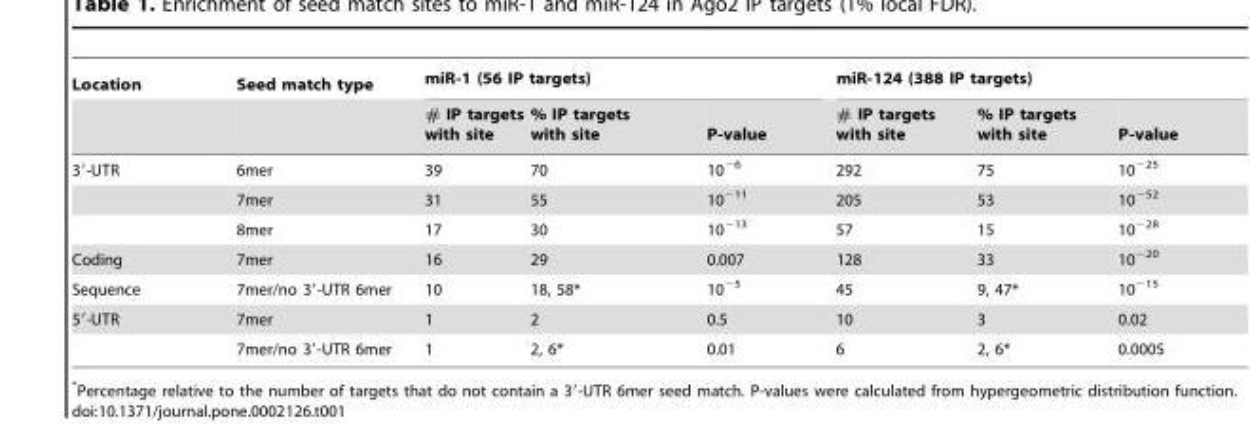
<table><thead><tr><td rowspan="2">Location</td><td rowspan="2">Seed match type</td><td colspan="3">miR-1 (56 IP targets)</td><td colspan="3">miR-124 (388 IP targets)</td></tr><tr><td># IP targets with site</td><td>% IP targets with site</td><td>P-value</td><td># IP targets with site</td><td>% IP targets with site</td><td>P-value</td></tr></thead><tbody><tr><td rowspan="3">3′-UTR</td><td>6mer</td><td>39</td><td>70</td><td>10<sup>−6</sup></td><td>292</td><td>75</td><td>10<sup>−25</sup></td></tr><tr><td>7mer</td><td>31</td><td>55</td><td>10<sup>−11</sup></td><td>205</td><td>53</td><td>10<sup>−52</sup></td></tr><tr><td>8mer</td><td>17</td><td>30</td><td>10<sup>−13</sup></td><td>57</td><td>15</td><td>10<sup>−28</sup></td></tr><tr><td>Coding</td><td>7mer</td><td>16</td><td>29</td><td>0.007</td><td>128</td><td>33</td><td>10<sup>−20</sup></td></tr><tr><td>Sequence</td><td>7mer/no 3′-UTR 6mer</td><td>10</td><td>18, 58*</td><td>10<sup>−5</sup></td><td>45</td><td>9, 47*</td><td>10<sup>−15</sup></td></tr><tr><td rowspan="2">5′-UTR</td><td>7mer</td><td>1</td><td>2</td><td>0.5</td><td>10</td><td>3</td><td>0.02</td></tr><tr><td>7mer/no 3′-UTR 6mer</td><td>1</td><td>2, 6*</td><td>0.01</td><td>6</td><td>2, 6*</td><td>0.0005</td></tr></tbody></table>